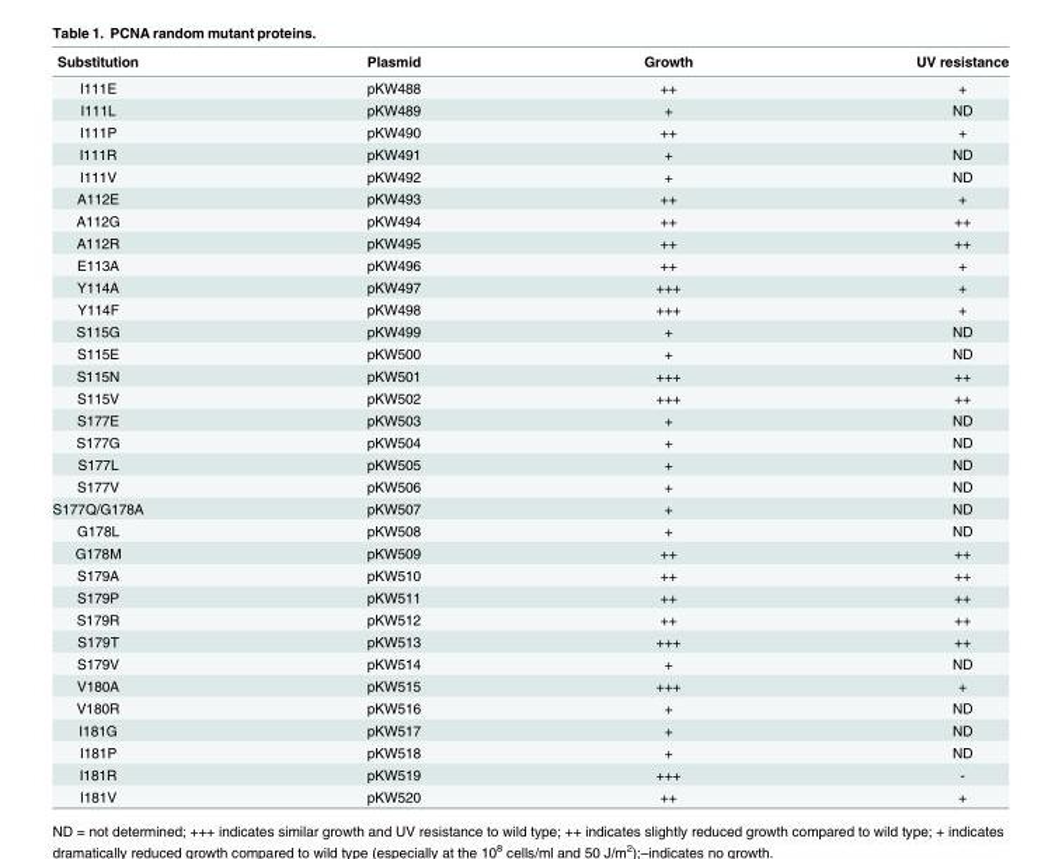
<table><thead><tr><td>Substitution</td><td>Plasmid</td><td>Growth</td><td>UV resistance</td></tr></thead><tbody><tr><td>I111E</td><td>pKW488</td><td>++</td><td>+</td></tr><tr><td>I111L</td><td>pKW489</td><td>+</td><td>ND</td></tr><tr><td>I111P</td><td>pKW490</td><td>++</td><td>+</td></tr><tr><td>I111R</td><td>pKW491</td><td>+</td><td>ND</td></tr><tr><td>I111V</td><td>pKW492</td><td>+</td><td>ND</td></tr><tr><td>A112E</td><td>pKW493</td><td>++</td><td>+</td></tr><tr><td>A112G</td><td>pKW494</td><td>++</td><td>++</td></tr><tr><td>A112R</td><td>pKW495</td><td>++</td><td>++</td></tr><tr><td>E113A</td><td>pKW496</td><td>++</td><td>+</td></tr><tr><td>Y114A</td><td>pKW497</td><td>+++</td><td>+</td></tr><tr><td>Y114F</td><td>pKW498</td><td>+++</td><td>+</td></tr><tr><td>S115G</td><td>pKW499</td><td>+</td><td>ND</td></tr><tr><td>S115E</td><td>pKW500</td><td>+</td><td>ND</td></tr><tr><td>S115N</td><td>pKW501</td><td>+++</td><td>++</td></tr><tr><td>S115V</td><td>pKW502</td><td>+++</td><td>++</td></tr><tr><td>S177E</td><td>pKW503</td><td>+</td><td>ND</td></tr><tr><td>S177G</td><td>pKW504</td><td>+</td><td>ND</td></tr><tr><td>S177L</td><td>pKW505</td><td>+</td><td>ND</td></tr><tr><td>S177V</td><td>pKW506</td><td>+</td><td>ND</td></tr><tr><td>S177Q/G178A</td><td>pKW507</td><td>+</td><td>ND</td></tr><tr><td>G178L</td><td>pKW508</td><td>+</td><td>ND</td></tr><tr><td>G178M</td><td>pKW509</td><td>++</td><td>++</td></tr><tr><td>S179A</td><td>pKW510</td><td>++</td><td>++</td></tr><tr><td>S179P</td><td>pKW511</td><td>++</td><td>++</td></tr><tr><td>S179R</td><td>pKW512</td><td>++</td><td>++</td></tr><tr><td>S179T</td><td>pKW513</td><td>+++</td><td>++</td></tr><tr><td>S179V</td><td>pKW514</td><td>+</td><td>ND</td></tr><tr><td>V180A</td><td>pKW515</td><td>+++</td><td>+</td></tr><tr><td>V180R</td><td>pKW516</td><td>+</td><td>ND</td></tr><tr><td>I181G</td><td>pKW517</td><td>+</td><td>ND</td></tr><tr><td>I181P</td><td>pKW518</td><td>+</td><td>ND</td></tr><tr><td>I181R</td><td>pKW519</td><td>+++</td><td>-</td></tr><tr><td>I181V</td><td>pKW520</td><td>++</td><td>+</td></tr></tbody></table>